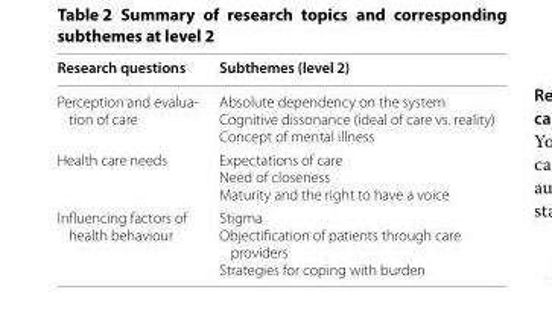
<table><thead><tr><td>Research questions</td><td>Subthemes (level 2)</td></tr></thead><tbody><tr><td>Perception and evalua- tion of care</td><td>Absolute dependency on the system Cognitive dissonance (ideal of care vs. reality) Concept of mental illness</td></tr><tr><td>Health care needs</td><td>Expectations of care Need of closeness Maturity and the right to have a voice</td></tr><tr><td>Influencing factors of health behaviour</td><td>Stigma Objectification of patients through care providers Strategies for coping with burden</td></tr></tbody></table>